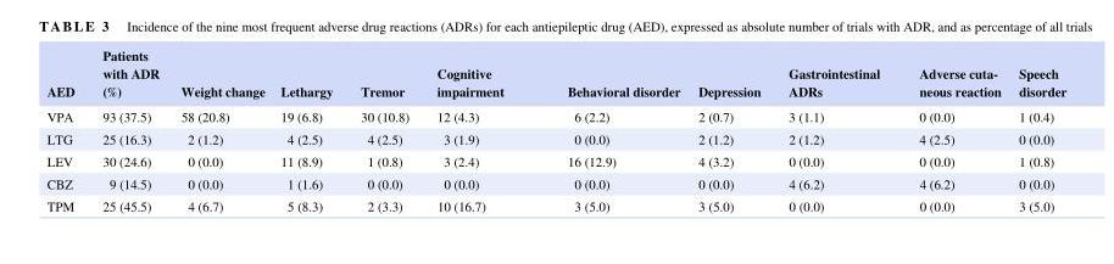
<table><thead><tr><td>AED</td><td>Patients with ADR (%)</td><td>Weight change</td><td>Lethargy</td><td>Tremor</td><td>Cognitive impairment</td><td>Behavioral disorder</td><td>Depression</td><td>Gastrointestinal ADRs</td><td>Adverse cuta- neous reaction</td><td>Speech disorder</td></tr></thead><tbody><tr><td>VPA</td><td>93 (37.5)</td><td>58 (20.8)</td><td>19 (6.8)</td><td>30 (10.8)</td><td>12 (4.3)</td><td>6 (2.2)</td><td>2 (0.7)</td><td>3 (1.1)</td><td>0 (0.0)</td><td>1 (0.4)</td></tr><tr><td>LTG</td><td>25 (16.3)</td><td>2 (1.2)</td><td>4 (2.5)</td><td>4 (2.5)</td><td>3 (1.9)</td><td>0 (0.0)</td><td>2 (1.2)</td><td>2 (1.2)</td><td>4 (2.5)</td><td>0 (0.0)</td></tr><tr><td>LEV</td><td>30 (24.6)</td><td>0 (0.0)</td><td>11 (8.9)</td><td>1 (0.8)</td><td>3 (2.4)</td><td>16 (12.9)</td><td>4 (3.2)</td><td>0 (0.0)</td><td>0 (0.0)</td><td>1 (0.8)</td></tr><tr><td>CBZ</td><td>9 (14.5)</td><td>0 (0.0)</td><td>1 (1.6)</td><td>0 (0.0)</td><td>0 (0.0)</td><td>0 (0.0)</td><td>0 (0.0)</td><td>4 (6.2)</td><td>4 (6.2)</td><td>0 (0.0)</td></tr><tr><td>TPM</td><td>25 (45.5)</td><td>4 (6.7)</td><td>5 (8.3)</td><td>2 (3.3)</td><td>10 (16.7)</td><td>3 (5.0)</td><td>3 (5.0)</td><td>0 (0.0)</td><td>0 (0.0)</td><td>3 (5.0)</td></tr></tbody></table>